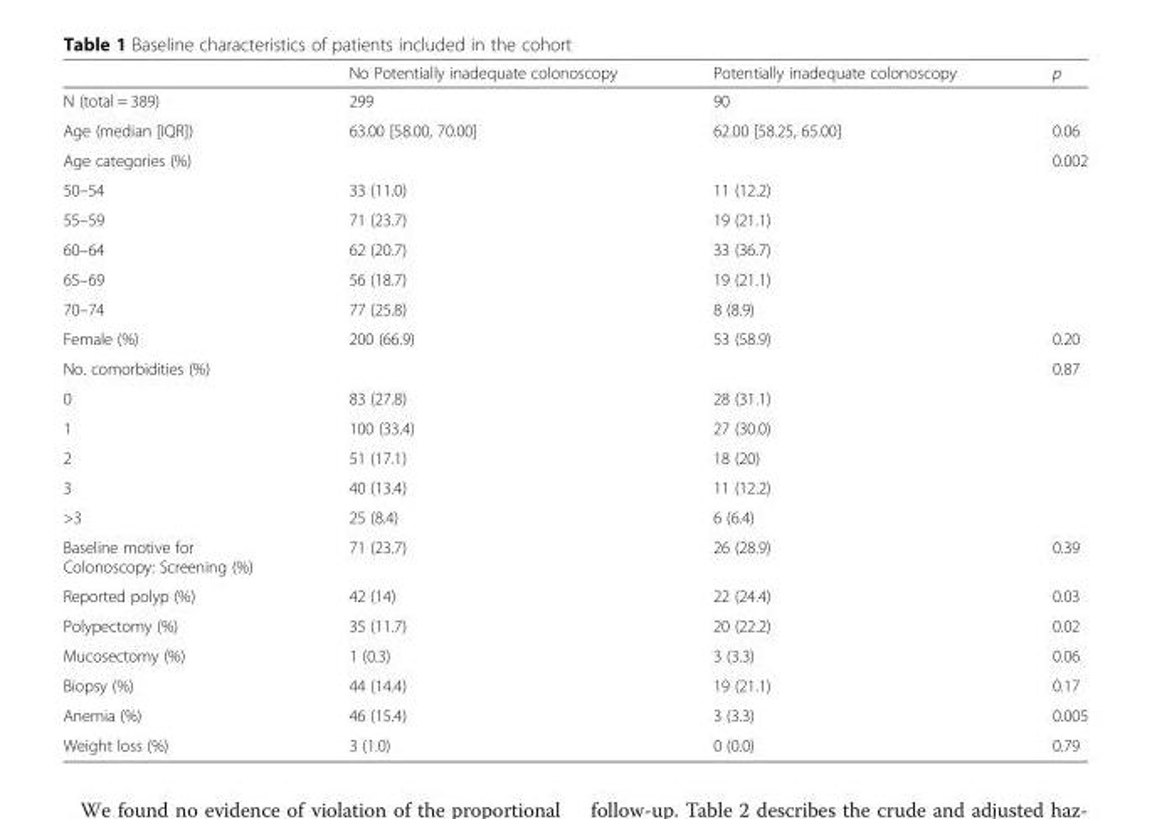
<table><thead><tr><td></td><td>No Potentially inadequate colonoscopy</td><td>Potentially inadequate colonoscopy</td><td>p</td></tr></thead><tbody><tr><td>N (total = 389)</td><td>299</td><td>90</td><td></td></tr><tr><td>Age (median [IQR])</td><td>63.00 [58.00, 70.00]</td><td>62.00 [58.25, 65.00]</td><td>0.06</td></tr><tr><td>Age categories (%)</td><td></td><td></td><td>0.002</td></tr><tr><td>50–54</td><td>33 (11.0)</td><td>11 (12.2)</td><td></td></tr><tr><td>55–59</td><td>71 (23.7)</td><td>19 (21.1)</td><td></td></tr><tr><td>60–64</td><td>62 (20.7)</td><td>33 (36.7)</td><td></td></tr><tr><td>65–69</td><td>56 (18.7)</td><td>19 (21.1)</td><td></td></tr><tr><td>70–74</td><td>77 (25.8)</td><td>8 (8.9)</td><td></td></tr><tr><td>Female (%)</td><td>200 (66.9)</td><td>53 (58.9)</td><td>0.20</td></tr><tr><td>No. comorbidities (%)</td><td></td><td></td><td>0.87</td></tr><tr><td>0</td><td>83 (27.8)</td><td>28 (31.1)</td><td></td></tr><tr><td>1</td><td>100 (33.4)</td><td>27 (30.0)</td><td></td></tr><tr><td>2</td><td>51 (17.1)</td><td>18 (20)</td><td></td></tr><tr><td>3</td><td>40 (13.4)</td><td>11 (12.2)</td><td></td></tr><tr><td>&gt;3</td><td>25 (8.4)</td><td>6 (6.4)</td><td></td></tr><tr><td>Baseline motive for Colonoscopy: Screening (%)</td><td>71 (23.7)</td><td>26 (28.9)</td><td>0.39</td></tr><tr><td>Reported polyp (%)</td><td>42 (14)</td><td>22 (24.4)</td><td>0.03</td></tr><tr><td>Polypectomy (%)</td><td>35 (11.7)</td><td>20 (22.2)</td><td>0.02</td></tr><tr><td>Mucosectomy (%)</td><td>1 (0.3)</td><td>3 (3.3)</td><td>0.06</td></tr><tr><td>Biopsy (%)</td><td>44 (14.4)</td><td>19 (21.1)</td><td>0.17</td></tr><tr><td>Anemia (%)</td><td>46 (15.4)</td><td>3 (3.3)</td><td>0.005</td></tr><tr><td>Weight loss (%)</td><td>3 (1.0)</td><td>0 (0.0)</td><td>0.79</td></tr></tbody></table>